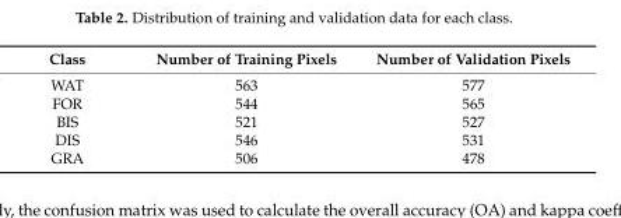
<table><thead><tr><td>Class</td><td>Number of Training Pixels</td><td>Number of Validation Pixels</td></tr></thead><tbody><tr><td>WAT</td><td>563</td><td>577</td></tr><tr><td>FOR</td><td>544</td><td>565</td></tr><tr><td>BIS</td><td>521</td><td>527</td></tr><tr><td>DIS</td><td>546</td><td>531</td></tr><tr><td>GRA</td><td>506</td><td>478</td></tr></tbody></table>